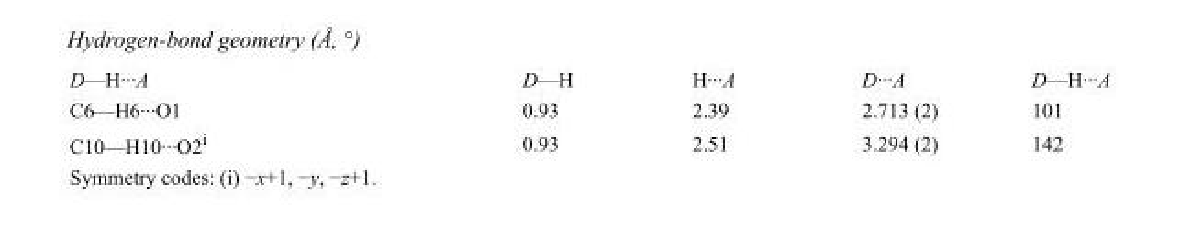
<table><tbody><tr><td>D—H···A</td><td>D—H</td><td>H···A</td><td>D···A</td><td>D—H···A</td></tr><tr><td>C6—H6···O1</td><td>0.93</td><td>2.39</td><td>2.713 (2)</td><td>101</td></tr><tr><td>C10—H10···O2<sup>i</sup></td><td>0.93</td><td>2.51</td><td>3.294 (2)</td><td>142</td></tr></tbody></table>